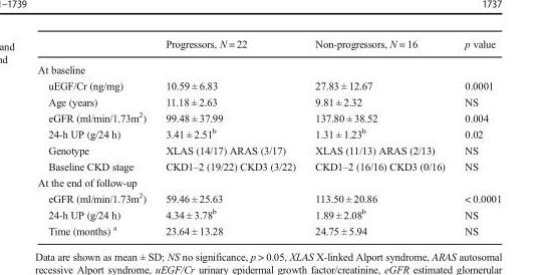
<table><thead><tr><td></td><td>Progressors, N = 22</td><td>Non-progressors, N = 16</td><td>p value</td></tr></thead><tbody><tr><td colspan="4">At baseline</td></tr><tr><td>uEGF/Cr (ng/mg)</td><td>10.59 ± 6.83</td><td>27.83 ± 12.67</td><td>0.0001</td></tr><tr><td>Age (years)</td><td>11.18 ± 2.63</td><td>9.81 ± 2.32</td><td>NS</td></tr><tr><td>eGFR (ml/min/1.73m<sup>2</sup>)</td><td>99.48 ± 37.99</td><td>137.80 ± 38.52</td><td>0.004</td></tr><tr><td>24-h UP (g/24 h)</td><td>3.41 ± 2.51<sup>b</sup></td><td>1.31 ± 1.23<sup>b</sup></td><td>0.02</td></tr><tr><td>Genotype</td><td>XLAS (14/17) ARAS (3/17)</td><td>XLAS (11/13) ARAS (2/13)</td><td>NS</td></tr><tr><td>Baseline CKD stage</td><td>CKD1–2 (19/22) CKD3 (3/22)</td><td>CKD1–2 (16/16) CKD3 (0/16)</td><td>NS</td></tr><tr><td colspan="4">At the end of follow-up</td></tr><tr><td>eGFR (ml/min/1.73m<sup>2</sup>)</td><td>59.46 ± 25.63</td><td>113.50 ± 20.86</td><td>&lt; 0.0001</td></tr><tr><td>24-h UP (g/24 h)</td><td>4.34 ± 3.78<sup>b</sup></td><td>1.89 ± 2.08<sup>b</sup></td><td>NS</td></tr><tr><td>Time (months) <sup>a</sup></td><td>23.64 ± 13.28</td><td>24.75 ± 5.94</td><td>NS</td></tr></tbody></table>